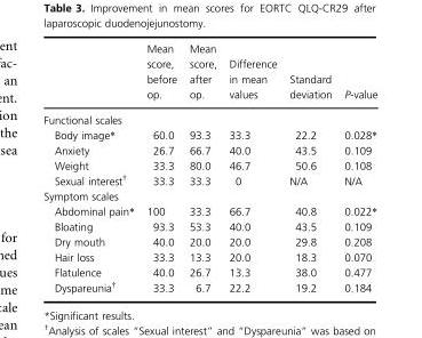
<table><thead><tr><td></td><td>Mean score, before op.</td><td>Mean score, after op.</td><td>Difference in mean values</td><td>Standard deviation</td><td>P-value</td></tr></thead><tbody><tr><td colspan="6">Functional scales</td></tr><tr><td>Body image*</td><td>60.0</td><td>93.3</td><td>33.3</td><td>22.2</td><td>0.028*</td></tr><tr><td>Anxiety</td><td>26.7</td><td>66.7</td><td>40.0</td><td>43.5</td><td>0.109</td></tr><tr><td>Weight</td><td>33.3</td><td>80.0</td><td>46.7</td><td>50.6</td><td>0.108</td></tr><tr><td>Sexual interest†</td><td>33.3</td><td>33.3</td><td>0</td><td>N/A</td><td>N/A</td></tr><tr><td colspan="6">Symptom scales</td></tr><tr><td>Abdominal pain*</td><td>100</td><td>33.3</td><td>66.7</td><td>40.8</td><td>0.022*</td></tr><tr><td>Bloating</td><td>93.3</td><td>53.3</td><td>40.0</td><td>43.5</td><td>0.109</td></tr><tr><td>Dry mouth</td><td>40.0</td><td>20.0</td><td>20.0</td><td>29.8</td><td>0.208</td></tr><tr><td>Hair loss</td><td>33.3</td><td>13.3</td><td>20.0</td><td>18.3</td><td>0.070</td></tr><tr><td>Flatulence</td><td>40.0</td><td>26.7</td><td>13.3</td><td>38.0</td><td>0.477</td></tr><tr><td>Dyspareunia†</td><td>33.3</td><td>6.7</td><td>22.2</td><td>19.2</td><td>0.184</td></tr></tbody></table>